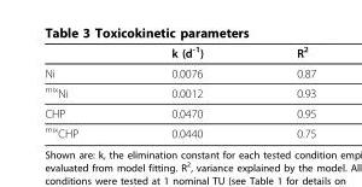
<table><thead><tr><td></td><td>k (d<sup>-1</sup>)</td><td>R<sup>2</sup></td></tr></thead><tbody><tr><td>Ni</td><td>0.0076</td><td>0.87</td></tr><tr><td><sup>mix</sup>Ni</td><td>0.0012</td><td>0.93</td></tr><tr><td>CHP</td><td>0.0470</td><td>0.95</td></tr><tr><td><sup>mix</sup>CHP</td><td>0.0440</td><td>0.75</td></tr></tbody></table>